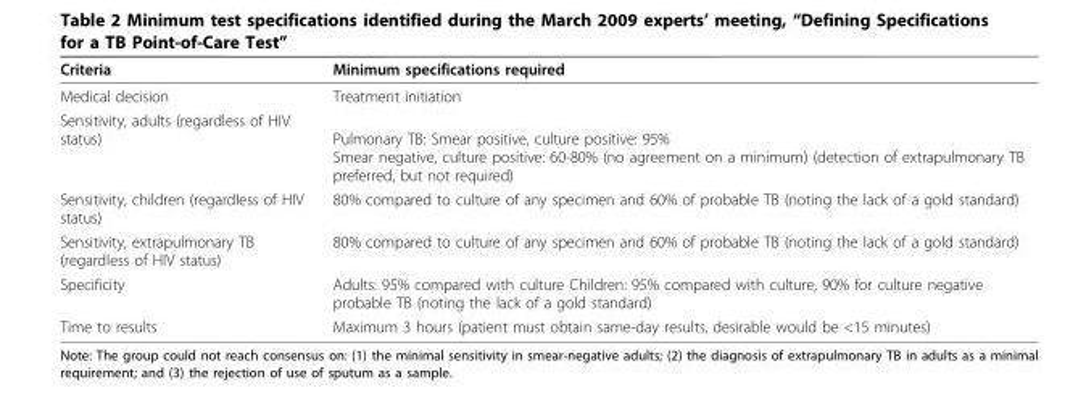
<table><thead><tr><td>Criteria</td><td>Minimum specifications required</td></tr></thead><tbody><tr><td>Medical decision</td><td>Treatment initiation</td></tr><tr><td>Sensitivity, adults (regardless of HIV status)</td><td>Pulmonary TB: Smear positive, culture positive: 95% Smear negative, culture positive: 60-80% (no agreement on a minimum) (detection of extrapulmonary TB preferred, but not required)</td></tr><tr><td>Sensitivity, children (regardless of HIV status)</td><td>80% compared to culture of any specimen and 60% of probable TB (noting the lack of a gold standard)</td></tr><tr><td>Sensitivity, extrapulmonary TB (regardless of HIV status)</td><td>80% compared to culture of any specimen and 60% of probable TB (noting the lack of a gold standard)</td></tr><tr><td>Specificity</td><td>Adults: 95% compared with culture Children: 95% compared with culture, 90% for culture negative probable TB (noting the lack of a gold standard)</td></tr><tr><td>Time to results</td><td>Maximum 3 hours (patient must obtain same-day results, desirable would be &lt;15 minutes)</td></tr></tbody></table>